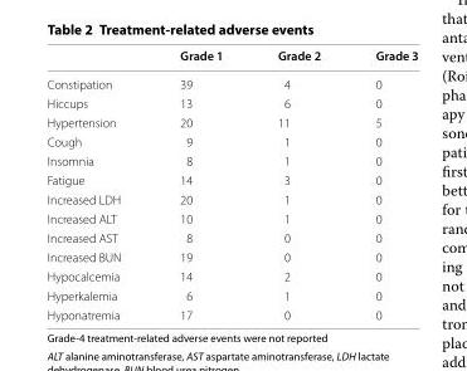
<table><thead><tr><td></td><td>Grade 1</td><td>Grade 2</td><td>Grade 3</td></tr></thead><tbody><tr><td>Constipation</td><td>39</td><td>4</td><td>0</td></tr><tr><td>Hiccups</td><td>13</td><td>6</td><td>0</td></tr><tr><td>Hypertension</td><td>20</td><td>11</td><td>5</td></tr><tr><td>Cough</td><td>9</td><td>1</td><td>0</td></tr><tr><td>Insomnia</td><td>8</td><td>1</td><td>0</td></tr><tr><td>Fatigue</td><td>14</td><td>3</td><td>0</td></tr><tr><td>Increased LDH</td><td>20</td><td>1</td><td>0</td></tr><tr><td>Increased ALT</td><td>10</td><td>1</td><td>0</td></tr><tr><td>Increased AST</td><td>8</td><td>0</td><td>0</td></tr><tr><td>Increased BUN</td><td>19</td><td>0</td><td>0</td></tr><tr><td>Hypocalcemia</td><td>14</td><td>2</td><td>0</td></tr><tr><td>Hyperkalemia</td><td>6</td><td>1</td><td>0</td></tr><tr><td>Hyponatremia</td><td>17</td><td>0</td><td>0</td></tr></tbody></table>